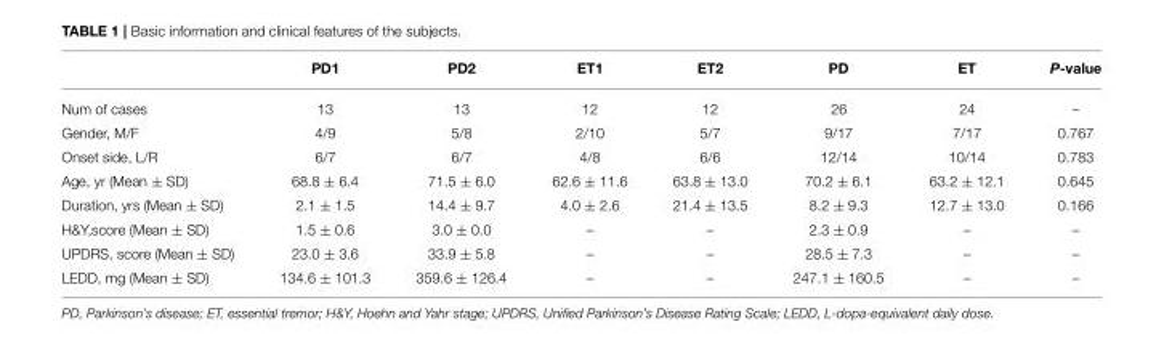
<table><thead><tr><td></td><td>PD1</td><td>PD2</td><td>ET1</td><td>ET2</td><td>PD</td><td>ET</td><td>P-value</td></tr></thead><tbody><tr><td>Num of cases</td><td>13</td><td>13</td><td>12</td><td>12</td><td>26</td><td>24</td><td>–</td></tr><tr><td>Gender, M/F</td><td>4/9</td><td>5/8</td><td>2/10</td><td>5/7</td><td>9/17</td><td>7/17</td><td>0.767</td></tr><tr><td>Onset side, L/R</td><td>6/7</td><td>6/7</td><td>4/8</td><td>6/6</td><td>12/14</td><td>10/14</td><td>0.783</td></tr><tr><td>Age, yr (Mean ± SD)</td><td>68.8 ± 6.4</td><td>71.5 ± 6.0</td><td>62.6 ± 11.6</td><td>63.8 ± 13.0</td><td>70.2 ± 6.1</td><td>63.2 ± 12.1</td><td>0.645</td></tr><tr><td>Duration, yrs (Mean ± SD)</td><td>2.1 ± 1.5</td><td>14.4 ± 9.7</td><td>4.0 ± 2.6</td><td>21.4 ± 13.5</td><td>8.2 ± 9.3</td><td>12.7 ± 13.0</td><td>0.166</td></tr><tr><td>H&amp;Y,score (Mean ± SD)</td><td>1.5 ± 0.6</td><td>3.0 ± 0.0</td><td>–</td><td>–</td><td>2.3 ± 0.9</td><td>–</td><td>–</td></tr><tr><td>UPDRS, score (Mean ± SD)</td><td>23.0 ± 3.6</td><td>33.9 ± 5.8</td><td>–</td><td>–</td><td>28.5 ± 7.3</td><td>–</td><td>–</td></tr><tr><td>LEDD, mg (Mean ± SD)</td><td>134.6 ± 101.3</td><td>359.6 ± 126.4</td><td>–</td><td>–</td><td>247.1 ± 160.5</td><td>–</td><td>–</td></tr></tbody></table>